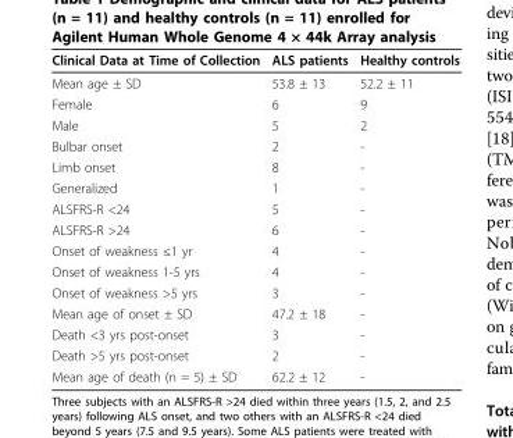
<table><thead><tr><td>Clinical Data at Time of Collection</td><td>ALS patients</td><td>Healthy controls</td></tr></thead><tbody><tr><td>Mean age ± SD</td><td>53.8 ± 13</td><td>52.2 ± 11</td></tr><tr><td>Female</td><td>6</td><td>9</td></tr><tr><td>Male</td><td>5</td><td>2</td></tr><tr><td>Bulbar onset</td><td>2</td><td>-</td></tr><tr><td>Limb onset</td><td>8</td><td>-</td></tr><tr><td>Generalized</td><td>1</td><td>-</td></tr><tr><td>ALSFRS-R &lt;24</td><td>5</td><td>-</td></tr><tr><td>ALSFRS-R &gt;24</td><td>6</td><td>-</td></tr><tr><td>Onset of weakness ≤1 yr</td><td>4</td><td>-</td></tr><tr><td>Onset of weakness 1-5 yrs</td><td>4</td><td>-</td></tr><tr><td>Onset of weakness &gt;5 yrs</td><td>3</td><td>-</td></tr><tr><td>Mean age of onset ± SD</td><td>47.2 ± 18</td><td>-</td></tr><tr><td>Death &lt;3 yrs post-onset</td><td>3</td><td>-</td></tr><tr><td>Death &gt;5 yrs post-onset</td><td>2</td><td>-</td></tr><tr><td>Mean age of death (n = 5) ± SD</td><td>62.2 ± 12</td><td>-</td></tr></tbody></table>